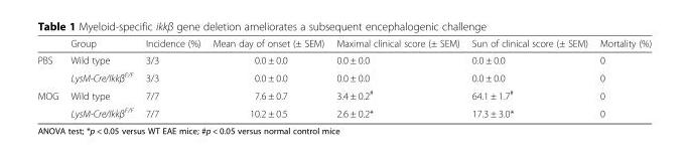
<table><thead><tr><td></td><td>Group</td><td>Incidence (%)</td><td>Mean day of onset (± SEM)</td><td>Maximal clinical score (± SEM)</td><td>Sun of clinical score (± SEM)</td><td>Mortality (%)</td></tr></thead><tbody><tr><td rowspan="2">PBS</td><td>Wild type</td><td>3/3</td><td>0.0 ± 0.0</td><td>0.0 ± 0.0</td><td>0.0 ± 0.0</td><td>0</td></tr><tr><td>LysM-Cre/Ikkβ<sup>F/F</sup></td><td>3/3</td><td>0.0 ± 0.0</td><td>0.0 ± 0.0</td><td>0.0 ± 0.0</td><td>0</td></tr><tr><td rowspan="2">MOG</td><td>Wild type</td><td>7/7</td><td>7.6 ± 0.7</td><td>3.4 ± 0.2<sup>#</sup></td><td>64.1 ± 1.7<sup>#</sup></td><td>0</td></tr><tr><td>LysM-Cre/Ikkβ<sup>F/F</sup></td><td>7/7</td><td>10.2 ± 0.5</td><td>2.6 ± 0.2*</td><td>17.3 ± 3.0*</td><td>0</td></tr></tbody></table>